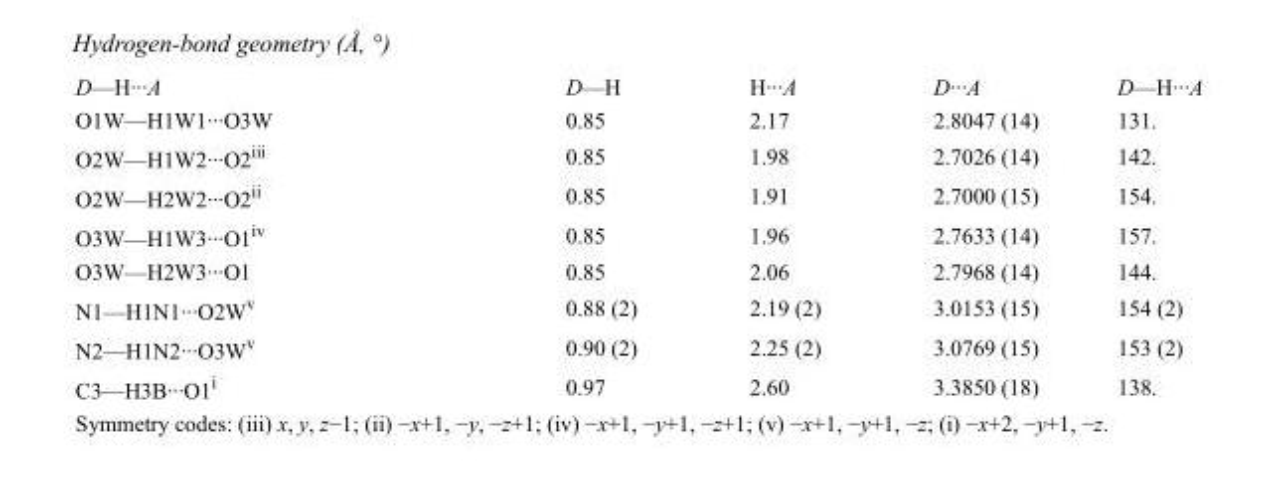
<table><tbody><tr><td>D—H···A</td><td>D—H</td><td>H···A</td><td>D···A</td><td>D—H···A</td></tr><tr><td>O1W—H1W1···O3W</td><td>0.85</td><td>2.17</td><td>2.8047 (14)</td><td>131.</td></tr><tr><td>O2W—H1W2···O2<sup>iii</sup></td><td>0.85</td><td>1.98</td><td>2.7026 (14)</td><td>142.</td></tr><tr><td>O2W—H2W2···O2<sup>ii</sup></td><td>0.85</td><td>1.91</td><td>2.7000 (15)</td><td>154.</td></tr><tr><td>O3W—H1W3···O1<sup>iv</sup></td><td>0.85</td><td>1.96</td><td>2.7633 (14)</td><td>157.</td></tr><tr><td>O3W—H2W3···O1</td><td>0.85</td><td>2.06</td><td>2.7968 (14)</td><td>144.</td></tr><tr><td>N1—H1N1···O2W<sup>v</sup></td><td>0.88 (2)</td><td>2.19 (2)</td><td>3.0153 (15)</td><td>154 (2)</td></tr><tr><td>N2—H1N2···O3W<sup>v</sup></td><td>0.90 (2)</td><td>2.25 (2)</td><td>3.0769 (15)</td><td>153 (2)</td></tr><tr><td>C3—H3B···O1<sup>i</sup></td><td>0.97</td><td>2.60</td><td>3.3850 (18)</td><td>138.</td></tr></tbody></table>